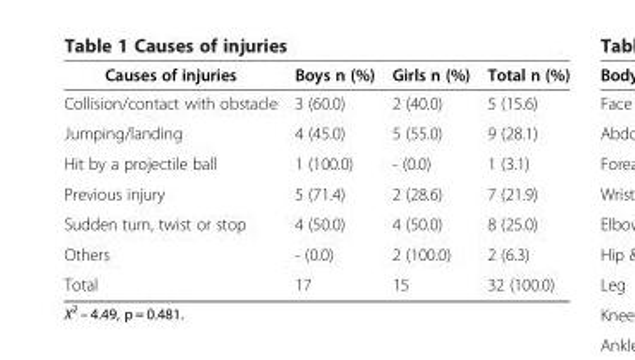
<table><thead><tr><td>Causes of injuries</td><td>Boys n (%)</td><td>Girls n (%)</td><td>Total n (%)</td></tr></thead><tbody><tr><td>Collision/contact with obstacle</td><td>3 (60.0)</td><td>2 (40.0)</td><td>5 (15.6)</td></tr><tr><td>Jumping/landing</td><td>4 (45.0)</td><td>5 (55.0)</td><td>9 (28.1)</td></tr><tr><td>Hit by a projectile ball</td><td>1 (100.0)</td><td>- (0.0)</td><td>1 (3.1)</td></tr><tr><td>Previous injury</td><td>5 (71.4)</td><td>2 (28.6)</td><td>7 (21.9)</td></tr><tr><td>Sudden turn, twist or stop</td><td>4 (50.0)</td><td>4 (50.0)</td><td>8 (25.0)</td></tr><tr><td>Others</td><td>- (0.0)</td><td>2 (100.0)</td><td>2 (6.3)</td></tr><tr><td>Total</td><td>17</td><td>15</td><td>32 (100.0)</td></tr></tbody></table>